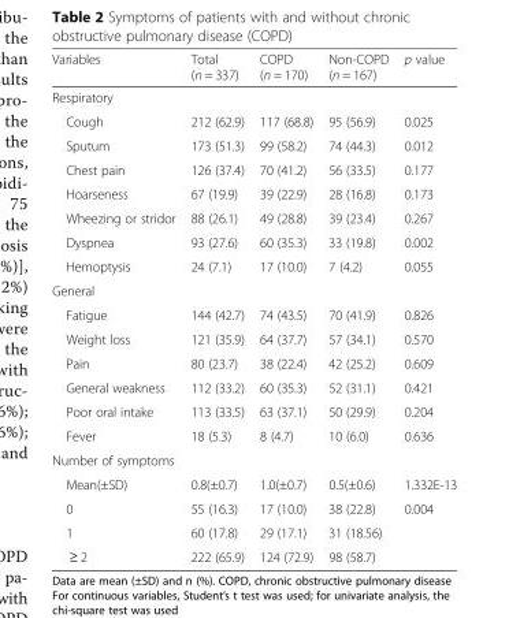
<table><thead><tr><td>Variables</td><td>Total (n = 337)</td><td>COPD (n = 170)</td><td>Non-COPD (n = 167)</td><td>p value</td></tr></thead><tbody><tr><td colspan="5">Respiratory</td></tr><tr><td>Cough</td><td>212 (62.9)</td><td>117 (68.8)</td><td>95 (56.9)</td><td>0.025</td></tr><tr><td>Sputum</td><td>173 (51.3)</td><td>99 (58.2)</td><td>74 (44.3)</td><td>0.012</td></tr><tr><td>Chest pain</td><td>126 (37.4)</td><td>70 (41.2)</td><td>56 (33.5)</td><td>0.177</td></tr><tr><td>Hoarseness</td><td>67 (19.9)</td><td>39 (22.9)</td><td>28 (16.8)</td><td>0.173</td></tr><tr><td>Wheezing or stridor</td><td>88 (26.1)</td><td>49 (28.8)</td><td>39 (23.4)</td><td>0.267</td></tr><tr><td>Dyspnea</td><td>93 (27.6)</td><td>60 (35.3)</td><td>33 (19.8)</td><td>0.002</td></tr><tr><td>Hemoptysis</td><td>24 (7.1)</td><td>17 (10.0)</td><td>7 (4.2)</td><td>0.055</td></tr><tr><td colspan="5">General</td></tr><tr><td>Fatigue</td><td>144 (42.7)</td><td>74 (43.5)</td><td>70 (41.9)</td><td>0.826</td></tr><tr><td>Weight loss</td><td>121 (35.9)</td><td>64 (37.7)</td><td>57 (34.1)</td><td>0.570</td></tr><tr><td>Pain</td><td>80 (23.7)</td><td>38 (22.4)</td><td>42 (25.2)</td><td>0.609</td></tr><tr><td>General weakness</td><td>112 (33.2)</td><td>60 (35.3)</td><td>52 (31.1)</td><td>0.421</td></tr><tr><td>Poor oral intake</td><td>113 (33.5)</td><td>63 (37.1)</td><td>50 (29.9)</td><td>0.204</td></tr><tr><td>Fever</td><td>18 (5.3)</td><td>8 (4.7)</td><td>10 (6.0)</td><td>0.636</td></tr><tr><td colspan="5">Number of symptoms</td></tr><tr><td>Mean(±SD)</td><td>0.8(±0.7)</td><td>1.0(±0.7)</td><td>0.5(±0.6)</td><td>1.332E-13</td></tr><tr><td>0</td><td>55 (16.3)</td><td>17 (10.0)</td><td>38 (22.8)</td><td>0.004</td></tr><tr><td>1</td><td>60 (17.8)</td><td>29 (17.1)</td><td>31 (18.56)</td><td></td></tr><tr><td>≥ 2</td><td>222 (65.9)</td><td>124 (72.9)</td><td>98 (58.7)</td><td></td></tr></tbody></table>